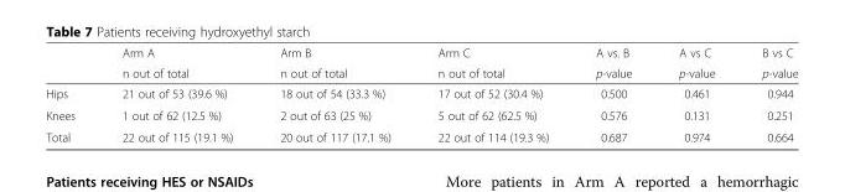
<table><thead><tr><td rowspan="2"></td><td rowspan="2">Arm A n out of total</td><td rowspan="2">Arm B n out of total</td><td rowspan="2">Arm C n out of total</td><td rowspan="2">A vs. B p-value</td><td rowspan="2">A vs C p-value</td><td rowspan="2">B vs C p-value</td></tr><tr></tr></thead><tbody><tr><td>Hips</td><td>21 out of 53 (39.6 %)</td><td>18 out of 54 (33.3 %)</td><td>17 out of 52 (30.4 %)</td><td>0.500</td><td>0.461</td><td>0.944</td></tr><tr><td>Knees</td><td>1 out of 62 (12.5 %)</td><td>2 out of 63 (25 %)</td><td>5 out of 62 (62.5 %)</td><td>0.576</td><td>0.131</td><td>0.251</td></tr><tr><td>Total</td><td>22 out of 115 (19.1 %)</td><td>20 out of 117 (17.1 %)</td><td>22 out of 114 (19.3 %)</td><td>0.687</td><td>0.974</td><td>0.664</td></tr></tbody></table>